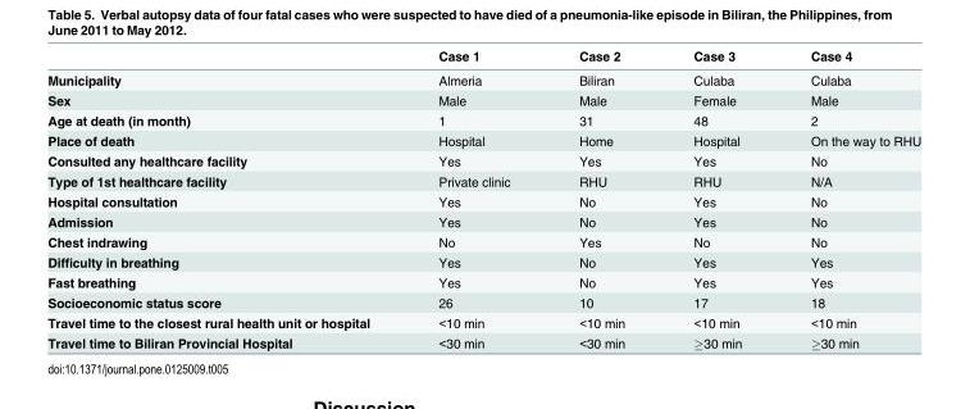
<table><thead><tr><td></td><td>Case 1</td><td>Case 2</td><td>Case 3</td><td>Case 4</td></tr></thead><tbody><tr><td>Municipality</td><td>Almeria</td><td>Biliran</td><td>Culaba</td><td>Culaba</td></tr><tr><td>Sex</td><td>Male</td><td>Male</td><td>Female</td><td>Male</td></tr><tr><td>Age at death (in month)</td><td>1</td><td>31</td><td>48</td><td>2</td></tr><tr><td>Place of death</td><td>Hospital</td><td>Home</td><td>Hospital</td><td>On the way to RHU</td></tr><tr><td>Consulted any healthcare facility</td><td>Yes</td><td>Yes</td><td>Yes</td><td>No</td></tr><tr><td>Type of 1st healthcare facility</td><td>Private clinic</td><td>RHU</td><td>RHU</td><td>N/A</td></tr><tr><td>Hospital consultation</td><td>Yes</td><td>No</td><td>Yes</td><td>No</td></tr><tr><td>Admission</td><td>Yes</td><td>No</td><td>Yes</td><td>No</td></tr><tr><td>Chest indrawing</td><td>No</td><td>Yes</td><td>No</td><td>No</td></tr><tr><td>Difficulty in breathing</td><td>Yes</td><td>No</td><td>Yes</td><td>Yes</td></tr><tr><td>Fast breathing</td><td>Yes</td><td>No</td><td>Yes</td><td>Yes</td></tr><tr><td>Socioeconomic status score</td><td>26</td><td>10</td><td>17</td><td>18</td></tr><tr><td>Travel time to the closest rural health unit or hospital</td><td>&lt;10 min</td><td>&lt;10 min</td><td>&lt;10 min</td><td>&lt;10 min</td></tr><tr><td>Travel time to Biliran Provincial Hospital</td><td>&lt;30 min</td><td>&lt;30 min</td><td>≥30 min</td><td>≥30 min</td></tr></tbody></table>